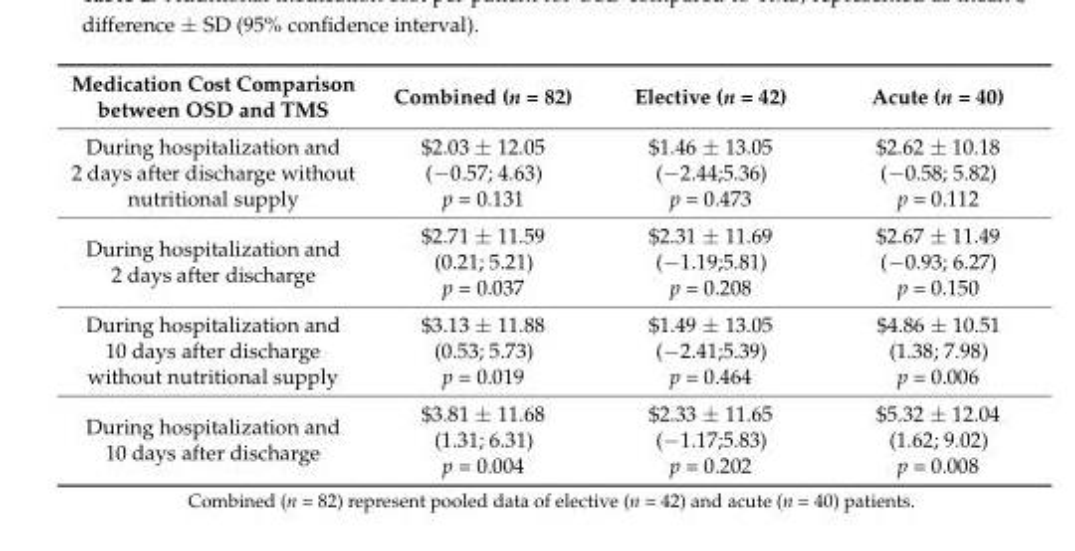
<table><thead><tr><td>Medication Cost Comparison between OSD and TMS</td><td>Combined (n = 82)</td><td>Elective (n = 42)</td><td>Acute (n = 40)</td></tr></thead><tbody><tr><td>During hospitalization and 2 days after discharge without nutritional supply</td><td>$2.03 ± 12.05 (−0.57; 4.63) p = 0.131</td><td>$1.46 ± 13.05 (−2.44;5.36) p = 0.473</td><td>$2.62 ± 10.18 (−0.58; 5.82) p = 0.112</td></tr><tr><td>During hospitalization and 2 days after discharge</td><td>$2.71 ± 11.59 (0.21; 5.21) p = 0.037</td><td>$2.31 ± 11.69 (−1.19;5.81) p = 0.208</td><td>$2.67 ± 11.49 (−0.93; 6.27) p = 0.150</td></tr><tr><td>During hospitalization and 10 days after discharge without nutritional supply</td><td>$3.13 ± 11.88 (0.53; 5.73) p = 0.019</td><td>$1.49 ± 13.05 (−2.41;5.39) p = 0.464</td><td>$4.86 ± 10.51 (1.38; 7.98) p = 0.006</td></tr><tr><td>During hospitalization and 10 days after discharge</td><td>$3.81 ± 11.68 (1.31; 6.31) p = 0.004</td><td>$2.33 ± 11.65 (−1.17;5.83) p = 0.202</td><td>$5.32 ± 12.04 (1.62; 9.02) p = 0.008</td></tr></tbody></table>